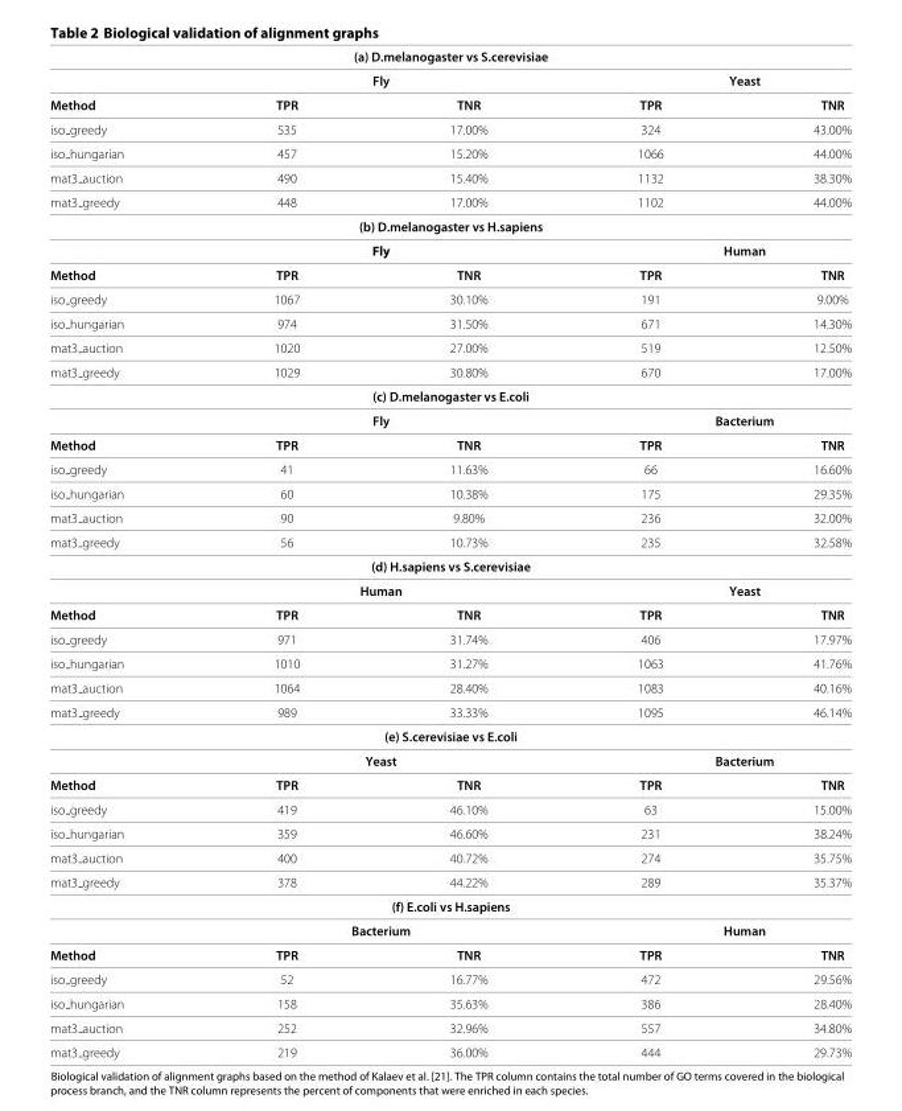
<table><thead><tr><td colspan="4">(a) D.melanogaster vs S.cerevisiae</td><td></td></tr><tr><td rowspan="2">Method</td><td colspan="2">Fly</td><td colspan="2">Yeast</td></tr><tr><td>TPR</td><td>TNR</td><td>TPR</td><td>TNR</td></tr></thead><tbody><tr><td>iso greedy</td><td>535</td><td>17.00%</td><td>324</td><td>43.00%</td></tr><tr><td>iso hungarian</td><td>457</td><td>15.20%</td><td>1066</td><td>44.00%</td></tr><tr><td>mat3 auction</td><td>490</td><td>15.40%</td><td>1132</td><td>38.30%</td></tr><tr><td>mat3 greedy</td><td>448</td><td>17.00%</td><td>1102</td><td>44.00%</td></tr><tr><td colspan="5">(b) D.melanogaster vs H.sapiens</td></tr><tr><td></td><td colspan="2">Fly</td><td colspan="2">Human</td></tr><tr><td>Method</td><td>TPR</td><td>TNR</td><td>TPR</td><td>TNR</td></tr><tr><td>iso greedy</td><td>1067</td><td>30.10%</td><td>191</td><td>9.00%</td></tr><tr><td>iso hungarian</td><td>974</td><td>31.50%</td><td>671</td><td>14.30%</td></tr><tr><td>mat3 auction</td><td>1020</td><td>27.00%</td><td>519</td><td>12.50%</td></tr><tr><td>mat3 greedy</td><td>1029</td><td>30.80%</td><td>670</td><td>17.00%</td></tr><tr><td colspan="5">(c) D.melanogaster vs E.coli</td></tr><tr><td></td><td colspan="2">Fly</td><td colspan="2">Bacterium</td></tr><tr><td>Method</td><td>TPR</td><td>TNR</td><td>TPR</td><td>TNR</td></tr><tr><td>iso greedy</td><td>41</td><td>11.63%</td><td>66</td><td>16.60%</td></tr><tr><td>iso hungarian</td><td>60</td><td>10.38%</td><td>175</td><td>29.35%</td></tr><tr><td>mat3 auction</td><td>90</td><td>9.80%</td><td>236</td><td>32.00%</td></tr><tr><td>mat3 greedy</td><td>56</td><td>10.73%</td><td>235</td><td>32.58%</td></tr><tr><td colspan="5">(d) H.sapiens vs S.cerevisiae</td></tr><tr><td></td><td colspan="2">Human</td><td colspan="2">Yeast</td></tr><tr><td>Method</td><td>TPR</td><td>TNR</td><td>TPR</td><td>TNR</td></tr><tr><td>iso greedy</td><td>971</td><td>31.74%</td><td>406</td><td>17.97%</td></tr><tr><td>iso hungarian</td><td>1010</td><td>31.27%</td><td>1063</td><td>41.76%</td></tr><tr><td>mat3 auction</td><td>1064</td><td>28.40%</td><td>1083</td><td>40.16%</td></tr><tr><td>mat3 greedy</td><td>989</td><td>33.33%</td><td>1095</td><td>46.14%</td></tr><tr><td colspan="5">(e) S.cerevisiae vs E.coli</td></tr><tr><td></td><td colspan="2">Yeast</td><td colspan="2">Bacterium</td></tr><tr><td>Method</td><td>TPR</td><td>TNR</td><td>TPR</td><td>TNR</td></tr><tr><td>iso greedy</td><td>419</td><td>46.10%</td><td>63</td><td>15.00%</td></tr><tr><td>iso hungarian</td><td>359</td><td>46.60%</td><td>231</td><td>38.24%</td></tr><tr><td>mat3 auction</td><td>400</td><td>40.72%</td><td>274</td><td>35.75%</td></tr><tr><td>mat3 greedy</td><td>378</td><td>44.22%</td><td>289</td><td>35.37%</td></tr><tr><td colspan="5">(f) E.coli vs H.sapiens</td></tr><tr><td></td><td colspan="2">Bacterium</td><td colspan="2">Human</td></tr><tr><td>Method</td><td>TPR</td><td>TNR</td><td>TPR</td><td>TNR</td></tr><tr><td>iso greedy</td><td>52</td><td>16.77%</td><td>472</td><td>29.56%</td></tr><tr><td>iso hungarian</td><td>158</td><td>35.63%</td><td>386</td><td>28.40%</td></tr><tr><td>mat3 auction</td><td>252</td><td>32.96%</td><td>557</td><td>34.80%</td></tr><tr><td>mat3 greedy</td><td>219</td><td>36.00%</td><td>444</td><td>29.73%</td></tr></tbody></table>